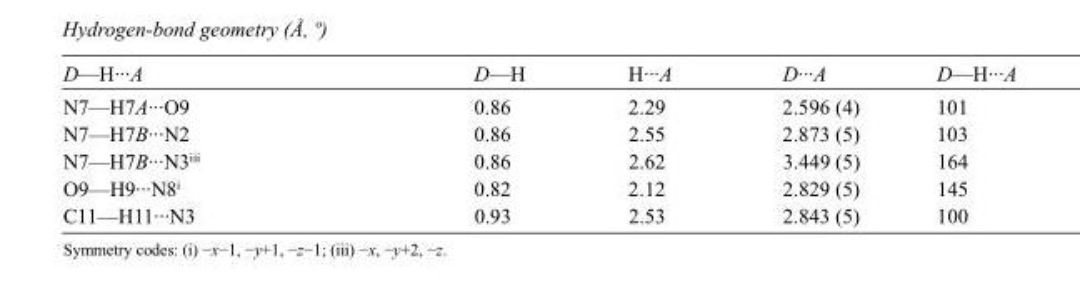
<table><tbody><tr><td>D—H···A</td><td>D—H</td><td>H···A</td><td>D···A</td><td>D—H···A</td></tr><tr><td>N7—H7A···O9</td><td>0.86</td><td>2.29</td><td>2.596 (4)</td><td>101</td></tr><tr><td>N7—H7B···N2</td><td>0.86</td><td>2.55</td><td>2.873 (5)</td><td>103</td></tr><tr><td>N7—H7B···N3<sup>iii</sup></td><td>0.86</td><td>2.62</td><td>3.449 (5)</td><td>164</td></tr><tr><td>O9—H9···N8<sup>i</sup></td><td>0.82</td><td>2.12</td><td>2.829 (5)</td><td>145</td></tr><tr><td>C11—H11···N3</td><td>0.93</td><td>2.53</td><td>2.843 (5)</td><td>100</td></tr></tbody></table>